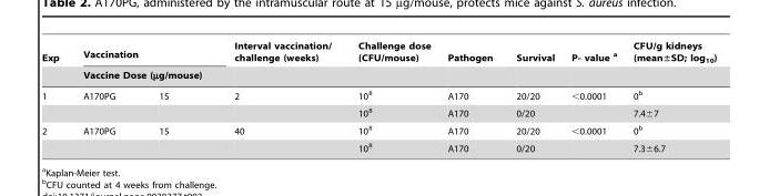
<table><thead><tr><td rowspan="3">Exp 1</td><td rowspan="2" colspan="2">Vaccination Vaccine Dose (µg/mouse)</td><td rowspan="3">Interval vaccination/ challenge (weeks) 2</td><td rowspan="3">Challenge dose (CFU/mouse) 10<sup>8</sup></td><td rowspan="3">Pathogen A170</td><td rowspan="3">Survival 20/20</td><td rowspan="3">P- value a &lt;0.0001</td><td rowspan="3">CFU/g kidneys (mean±SD; log<sub>10</sub>) 0<sup>b</sup></td></tr><tr></tr><tr><td>A170PG</td><td>15</td></tr></thead><tbody><tr><td></td><td></td><td></td><td></td><td>10<sup>8</sup></td><td>A170</td><td>0/20</td><td></td><td>7.4±7</td></tr><tr><td rowspan="2">2</td><td>A170PG</td><td>15</td><td>40</td><td>10<sup>8</sup></td><td>A170</td><td>20/20</td><td>&lt;0.0001</td><td>0<sup>b</sup></td></tr><tr><td></td><td></td><td></td><td>10<sup>8</sup></td><td>A170</td><td>0/20</td><td></td><td>7.3±6.7</td></tr></tbody></table>